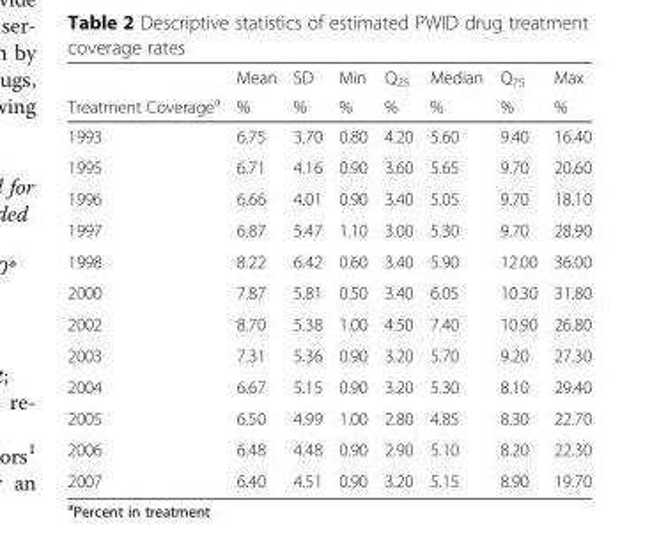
<table><thead><tr><td rowspan="2">Treatment Coverage<sup>a</sup></td><td rowspan="2">Mean %</td><td rowspan="2">SD %</td><td rowspan="2">Min %</td><td rowspan="2">Q<sub>25</sub> %</td><td rowspan="2">Median %</td><td rowspan="2">Q<sub>75</sub> %</td><td rowspan="2">Max %</td></tr><tr></tr></thead><tbody><tr><td>1993</td><td>6.75</td><td>3.70</td><td>0.80</td><td>4.20</td><td>5.60</td><td>9.40</td><td>16.40</td></tr><tr><td>1995</td><td>6.71</td><td>4.16</td><td>0.90</td><td>3.60</td><td>5.65</td><td>9.70</td><td>20.60</td></tr><tr><td>1996</td><td>6.66</td><td>4.01</td><td>0.90</td><td>3.40</td><td>5.05</td><td>9.70</td><td>18.10</td></tr><tr><td>1997</td><td>6.87</td><td>5.47</td><td>1.10</td><td>3.00</td><td>5.30</td><td>9.70</td><td>28.90</td></tr><tr><td>1998</td><td>8.22</td><td>6.42</td><td>0.60</td><td>3.40</td><td>5.90</td><td>12.00</td><td>36.00</td></tr><tr><td>2000</td><td>7.87</td><td>5.81</td><td>0.50</td><td>3.40</td><td>6.05</td><td>10.30</td><td>31.80</td></tr><tr><td>2002</td><td>8.70</td><td>5.38</td><td>1.00</td><td>4.50</td><td>7.40</td><td>10.90</td><td>26.80</td></tr><tr><td>2003</td><td>7.31</td><td>5.36</td><td>0.90</td><td>3.20</td><td>5.70</td><td>9.20</td><td>27.30</td></tr><tr><td>2004</td><td>6.67</td><td>5.15</td><td>0.90</td><td>3.20</td><td>5.30</td><td>8.10</td><td>29.40</td></tr><tr><td>2005</td><td>6.50</td><td>4.99</td><td>1.00</td><td>2.80</td><td>4.85</td><td>8.30</td><td>22.70</td></tr><tr><td>2006</td><td>6.48</td><td>4.48</td><td>0.90</td><td>2.90</td><td>5.10</td><td>8.20</td><td>22.30</td></tr><tr><td>2007</td><td>6.40</td><td>4.51</td><td>0.90</td><td>3.20</td><td>5.15</td><td>8.90</td><td>19.70</td></tr></tbody></table>